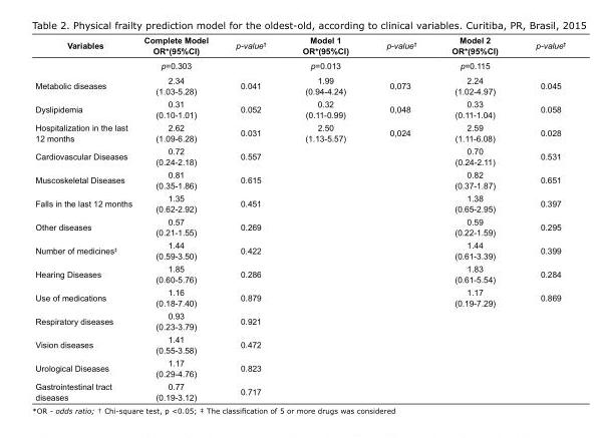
<table><tbody><tr><td rowspan="2">Variables</td><td>Complete Model OR*(95%CI)</td><td>p-value<sup>†</sup></td><td>Model 1 OR*(95%CI)</td><td>p-value<sup>†</sup></td><td>Model 2 OR*(95%CI)</td><td>p-value<sup>†</sup></td></tr><tr><td>p=0.303</td><td></td><td>p=0.013</td><td></td><td>p=0.115</td><td></td></tr><tr><td>Metabolic diseases</td><td>2.34 (1.03-5.28)</td><td>0.041</td><td>1.99 (0.94-4.24)</td><td>0,073</td><td>2.24 (1.02-4.97)</td><td>0.045</td></tr><tr><td>Dyslipidemia</td><td>0.31 (0.10-1.01)</td><td>0.052</td><td>0.32 (0.11-0.99)</td><td>0,048</td><td>0.33 (0.11-1.04)</td><td>0.058</td></tr><tr><td>Hospitalization in the last 12 months</td><td>2.62 (1.09-6.28)</td><td>0.031</td><td>2.50 (1.13-5.57)</td><td>0,024</td><td>2.59 (1.11-6.08)</td><td>0.028</td></tr><tr><td>Cardiovascular Diseases</td><td>0.72 (0.24-2.18)</td><td>0.557</td><td></td><td></td><td>0.70 (0.24-2.11)</td><td>0.531</td></tr><tr><td>Muscoskeletal Diseases</td><td>0.81 (0.35-1.86)</td><td>0.615</td><td></td><td></td><td>0.82 (0.37-1.87)</td><td>0.651</td></tr><tr><td>Falls in the last 12 months</td><td>1.35 (0.62-2.92)</td><td>0.451</td><td></td><td></td><td>1.38 (0.65-2.95)</td><td>0.397</td></tr><tr><td>Other diseases</td><td>0.57 (0.21-1.55)</td><td>0.269</td><td></td><td></td><td>0.59 (0.22-1.59)</td><td>0.295</td></tr><tr><td>Number of medicines<sup>‡</sup></td><td>1.44 (0.59-3.50)</td><td>0.422</td><td></td><td></td><td>1.44 (0.61-3.39)</td><td>0.399</td></tr><tr><td>Hearing Diseases</td><td>1.85 (0.60-5.76)</td><td>0.286</td><td></td><td></td><td>1.83 (0.61-5.54)</td><td>0.284</td></tr><tr><td>Use of medications</td><td>1.16 (0.18-7.40)</td><td>0.879</td><td></td><td></td><td>1.17 (0.19-7.29)</td><td>0.869</td></tr><tr><td>Respiratory diseases</td><td>0.93 (0.23-3.79)</td><td>0.921</td><td></td><td></td><td></td><td></td></tr><tr><td>Vision diseases</td><td>1.41 (0.55-3.58)</td><td>0.472</td><td></td><td></td><td></td><td></td></tr><tr><td>Urological Diseases</td><td>1.17 (0.29-4.76)</td><td>0.823</td><td></td><td></td><td></td><td></td></tr><tr><td>Gastrointestinal tract diseases</td><td>0.77 (0.19-3.12)</td><td>0.717</td><td></td><td></td><td></td><td></td></tr></tbody></table>